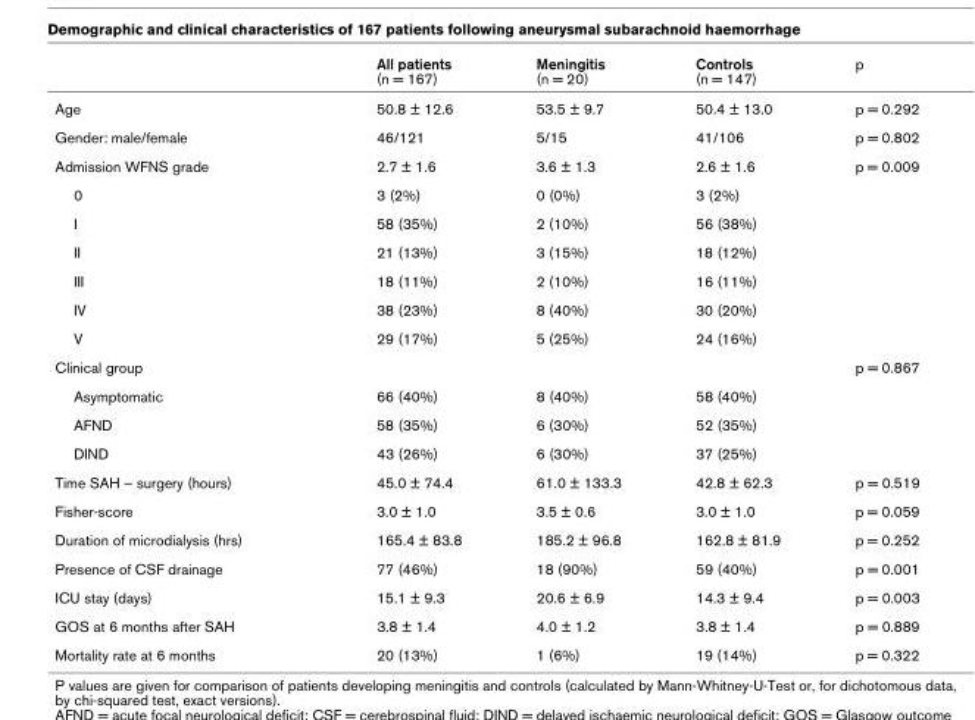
<table><thead><tr><td></td><td>All patients (n = 167)</td><td>Meningitis (n = 20)</td><td>Controls (n = 147)</td><td>p</td></tr></thead><tbody><tr><td>Age</td><td>50.8 ± 12.6</td><td>53.5 ± 9.7</td><td>50.4 ± 13.0</td><td>p = 0.292</td></tr><tr><td>Gender: male/female</td><td>46/121</td><td>5/15</td><td>41/106</td><td>p = 0.802</td></tr><tr><td>Admission WFNS grade</td><td>2.7 ± 1.6</td><td>3.6 ± 1.3</td><td>2.6 ± 1.6</td><td>p = 0.009</td></tr><tr><td>0</td><td>3 (2%)</td><td>0 (0%)</td><td>3 (2%)</td><td></td></tr><tr><td>I</td><td>58 (35%)</td><td>2 (10%)</td><td>56 (38%)</td><td></td></tr><tr><td>II</td><td>21 (13%)</td><td>3 (15%)</td><td>18 (12%)</td><td></td></tr><tr><td>III</td><td>18 (11%)</td><td>2 (10%)</td><td>16 (11%)</td><td></td></tr><tr><td>IV</td><td>38 (23%)</td><td>8 (40%)</td><td>30 (20%)</td><td></td></tr><tr><td>V</td><td>29 (17%)</td><td>5 (25%)</td><td>24 (16%)</td><td></td></tr><tr><td>Clinical group</td><td></td><td></td><td></td><td>p = 0.867</td></tr><tr><td>Asymptomatic</td><td>66 (40%)</td><td>8 (40%)</td><td>58 (40%)</td><td></td></tr><tr><td>AFND</td><td>58 (35%)</td><td>6 (30%)</td><td>52 (35%)</td><td></td></tr><tr><td>DIND</td><td>43 (26%)</td><td>6 (30%)</td><td>37 (25%)</td><td></td></tr><tr><td>Time SAH – surgery (hours)</td><td>45.0 ± 74.4</td><td>61.0 ± 133.3</td><td>42.8 ± 62.3</td><td>p = 0.519</td></tr><tr><td>Fisher-score</td><td>3.0 ± 1.0</td><td>3.5 ± 0.6</td><td>3.0 ± 1.0</td><td>p = 0.059</td></tr><tr><td>Duration of microdialysis (hrs)</td><td>165.4 ± 83.8</td><td>185.2 ± 96.8</td><td>162.8 ± 81.9</td><td>p = 0.252</td></tr><tr><td>Presence of CSF drainage</td><td>77 (46%)</td><td>18 (90%)</td><td>59 (40%)</td><td>p = 0.001</td></tr><tr><td>ICU stay (days)</td><td>15.1 ± 9.3</td><td>20.6 ± 6.9</td><td>14.3 ± 9.4</td><td>p = 0.003</td></tr><tr><td>GOS at 6 months after SAH</td><td>3.8 ± 1.4</td><td>4.0 ± 1.2</td><td>3.8 ± 1.4</td><td>p = 0.889</td></tr><tr><td>Mortality rate at 6 months</td><td>20 (13%)</td><td>1 (6%)</td><td>19 (14%)</td><td>p = 0.322</td></tr></tbody></table>